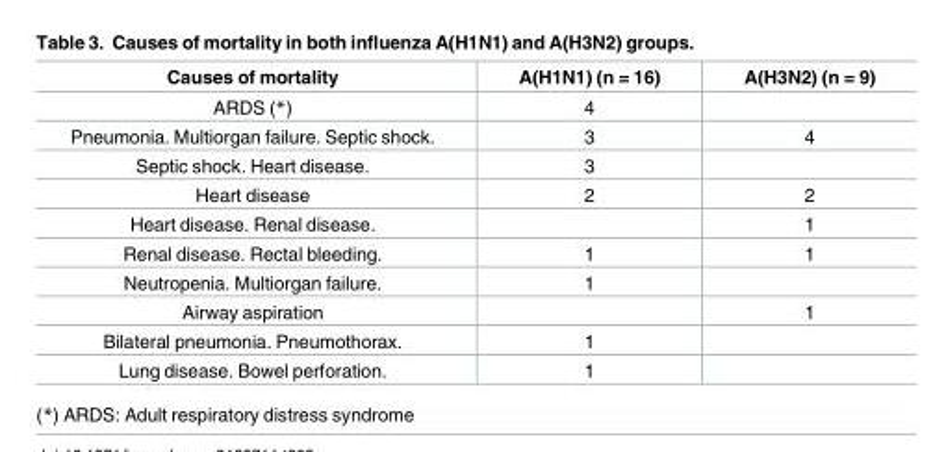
<table><thead><tr><td>Causes of mortality</td><td>A(H1N1) (n = 16)</td><td>A(H3N2) (n = 9)</td></tr></thead><tbody><tr><td>ARDS (*)</td><td>4</td><td></td></tr><tr><td>Pneumonia. Multiorgan failure. Septic shock.</td><td>3</td><td>4</td></tr><tr><td>Septic shock. Heart disease.</td><td>3</td><td></td></tr><tr><td>Heart disease</td><td>2</td><td>2</td></tr><tr><td>Heart disease. Renal disease.</td><td></td><td>1</td></tr><tr><td>Renal disease. Rectal bleeding.</td><td>1</td><td>1</td></tr><tr><td>Neutropenia. Multiorgan failure.</td><td>1</td><td></td></tr><tr><td>Airway aspiration</td><td></td><td>1</td></tr><tr><td>Bilateral pneumonia. Pneumothorax.</td><td>1</td><td></td></tr><tr><td>Lung disease. Bowel perforation.</td><td>1</td><td></td></tr></tbody></table>